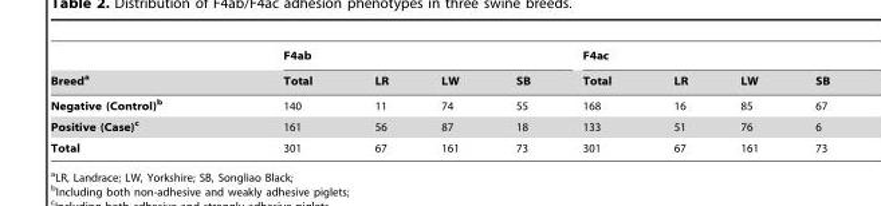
<table><thead><tr><td rowspan="2">Breed<sup>a</sup></td><td colspan="4">F4ab</td><td colspan="4">F4ac</td></tr><tr><td>Total</td><td>LR</td><td>LW</td><td>SB</td><td>Total</td><td>LR</td><td>LW</td><td>SB</td></tr></thead><tbody><tr><td>Negative (Control)b</td><td>140</td><td>11</td><td>74</td><td>55</td><td>168</td><td>16</td><td>85</td><td>67</td></tr><tr><td>Positive (Case)c</td><td>161</td><td>56</td><td>87</td><td>18</td><td>133</td><td>51</td><td>76</td><td>6</td></tr><tr><td>Total</td><td>301</td><td>67</td><td>161</td><td>73</td><td>301</td><td>67</td><td>161</td><td>73</td></tr></tbody></table>